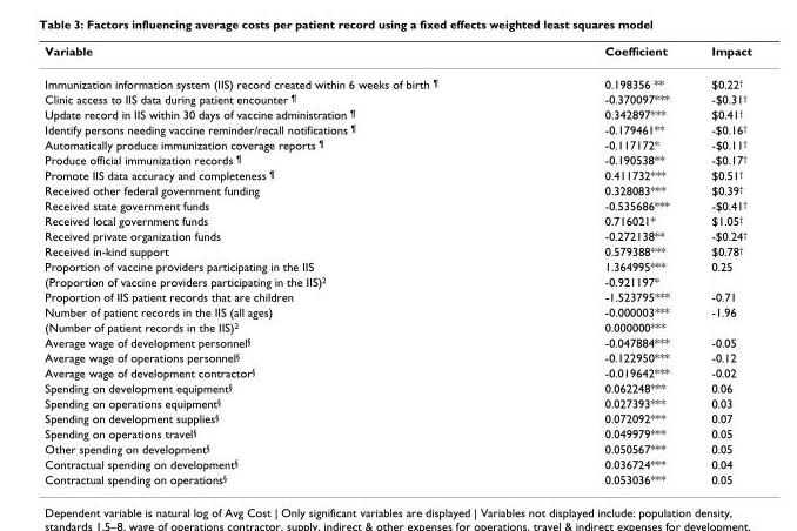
<table><thead><tr><td>Variable</td><td>Coefficient</td><td>Impact</td></tr></thead><tbody><tr><td>Immunization information system (IIS) record created within 6 weeks of birth <sup>¶</sup></td><td>0.198356 **</td><td>$0.22<sup>†</sup></td></tr><tr><td>Clinic access to IIS data during patient encounter <sup>¶</sup></td><td>-0.370097***</td><td>-$0.31<sup>†</sup></td></tr><tr><td>Update record in IIS within 30 days of vaccine administration <sup>¶</sup></td><td>0.342897***</td><td>$0.41<sup>†</sup></td></tr><tr><td>Identify persons needing vaccine reminder/recall notifications <sup>¶</sup></td><td>-0.179461**</td><td>-$0.16<sup>†</sup></td></tr><tr><td>Automatically produce immunization coverage reports <sup>¶</sup></td><td>-0.117172*</td><td>-$0.11<sup>†</sup></td></tr><tr><td>Produce official immunization records <sup>¶</sup></td><td>-0.190538**</td><td>-$0.17<sup>†</sup></td></tr><tr><td>Promote IIS data accuracy and completeness <sup>¶</sup></td><td>0.411732***</td><td>$0.51<sup>†</sup></td></tr><tr><td>Received other federal government funding</td><td>0.328083***</td><td>$0.39<sup>†</sup></td></tr><tr><td>Received state government funds</td><td>-0.535686***</td><td>-$0.41<sup>†</sup></td></tr><tr><td>Received local government funds</td><td>0.716021*</td><td>$1.05<sup>†</sup></td></tr><tr><td>Received private organization funds</td><td>-0.272138**</td><td>-$0.24<sup>†</sup></td></tr><tr><td>Received in-kind support</td><td>0.579388***</td><td>$0.78<sup>†</sup></td></tr><tr><td>Proportion of vaccine providers participating in the IIS</td><td>1.364995***</td><td>0.25</td></tr><tr><td>(Proportion of vaccine providers participating in the IIS)<sup>2</sup></td><td>-0.921197*</td><td></td></tr><tr><td>Proportion of IIS patient records that are children</td><td>-1.523795***</td><td>-0.71</td></tr><tr><td>Number of patient records in the IIS (all ages)</td><td>-0.000003***</td><td>-1.96</td></tr><tr><td>(Number of patient records in the IIS)<sup>2</sup></td><td>0.000000***</td><td></td></tr><tr><td>Average wage of development personnel<sup>§</sup></td><td>-0.047884***</td><td>-0.05</td></tr><tr><td>Average wage of operations personnel<sup>§</sup></td><td>-0.122950***</td><td>-0.12</td></tr><tr><td>Average wage of development contractor<sup>§</sup></td><td>-0.019642***</td><td>-0.02</td></tr><tr><td>Spending on development equipment<sup>§</sup></td><td>0.062248***</td><td>0.06</td></tr><tr><td>Spending on operations equipment<sup>§</sup></td><td>0.027393***</td><td>0.03</td></tr><tr><td>Spending on development supplies<sup>§</sup></td><td>0.072092***</td><td>0.07</td></tr><tr><td>Spending on operations travel<sup>§</sup></td><td>0.049979***</td><td>0.05</td></tr><tr><td>Other spending on development<sup>§</sup></td><td>0.050567***</td><td>0.05</td></tr><tr><td>Contractual spending on development<sup>§</sup></td><td>0.036724***</td><td>0.04</td></tr><tr><td>Contractual spending on operations<sup>§</sup></td><td>0.053036***</td><td>0.05</td></tr></tbody></table>